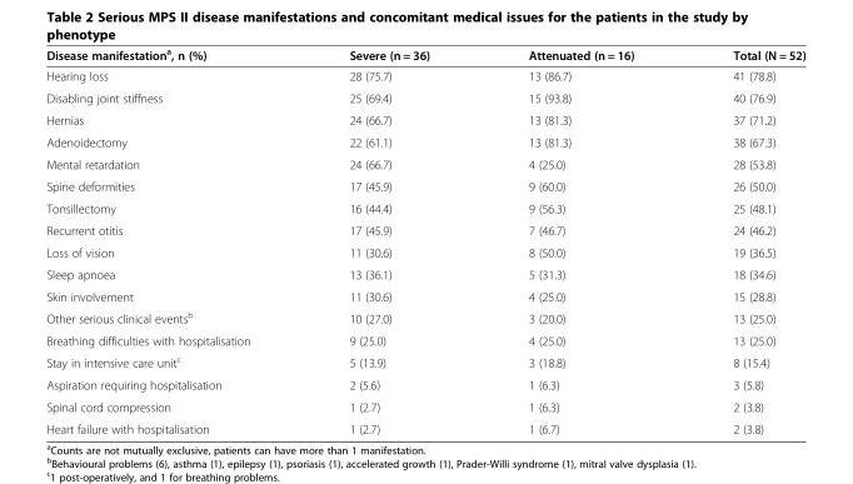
<table><thead><tr><td>Disease manifestation<sup>a</sup>, n (%)</td><td>Severe (n = 36)</td><td>Attenuated (n = 16)</td><td>Total (N = 52)</td></tr></thead><tbody><tr><td>Hearing loss</td><td>28 (75.7)</td><td>13 (86.7)</td><td>41 (78.8)</td></tr><tr><td>Disabling joint stiffness</td><td>25 (69.4)</td><td>15 (93.8)</td><td>40 (76.9)</td></tr><tr><td>Hernias</td><td>24 (66.7)</td><td>13 (81.3)</td><td>37 (71.2)</td></tr><tr><td>Adenoidectomy</td><td>22 (61.1)</td><td>13 (81.3)</td><td>38 (67.3)</td></tr><tr><td>Mental retardation</td><td>24 (66.7)</td><td>4 (25.0)</td><td>28 (53.8)</td></tr><tr><td>Spine deformities</td><td>17 (45.9)</td><td>9 (60.0)</td><td>26 (50.0)</td></tr><tr><td>Tonsillectomy</td><td>16 (44.4)</td><td>9 (56.3)</td><td>25 (48.1)</td></tr><tr><td>Recurrent otitis</td><td>17 (45.9)</td><td>7 (46.7)</td><td>24 (46.2)</td></tr><tr><td>Loss of vision</td><td>11 (30.6)</td><td>8 (50.0)</td><td>19 (36.5)</td></tr><tr><td>Sleep apnoea</td><td>13 (36.1)</td><td>5 (31.3)</td><td>18 (34.6)</td></tr><tr><td>Skin involvement</td><td>11 (30.6)</td><td>4 (25.0)</td><td>15 (28.8)</td></tr><tr><td>Other serious clinical events<sup>b</sup></td><td>10 (27.0)</td><td>3 (20.0)</td><td>13 (25.0)</td></tr><tr><td>Breathing difficulties with hospitalisation</td><td>9 (25.0)</td><td>4 (25.0)</td><td>13 (25.0)</td></tr><tr><td>Stay in intensive care unit<sup>c</sup></td><td>5 (13.9)</td><td>3 (18.8)</td><td>8 (15.4)</td></tr><tr><td>Aspiration requiring hospitalisation</td><td>2 (5.6)</td><td>1 (6.3)</td><td>3 (5.8)</td></tr><tr><td>Spinal cord compression</td><td>1 (2.7)</td><td>1 (6.3)</td><td>2 (3.8)</td></tr><tr><td>Heart failure with hospitalisation</td><td>1 (2.7)</td><td>1 (6.7)</td><td>2 (3.8)</td></tr></tbody></table>